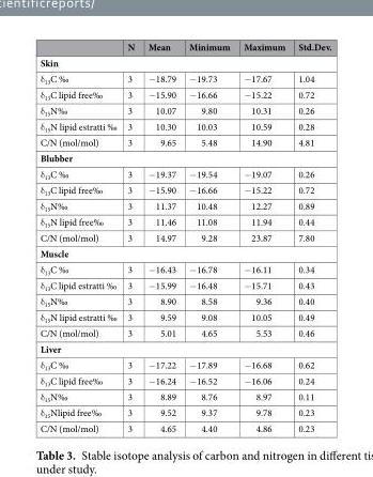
<table><thead><tr><td></td><td>N</td><td>Mean</td><td>Minimum</td><td>Maximum</td><td>Std.Dev.</td></tr></thead><tbody><tr><td colspan="6">Skin</td></tr><tr><td>δ<sub>13</sub>C ‰</td><td>3</td><td>−18.79</td><td>−19.73</td><td>−17.67</td><td>1.04</td></tr><tr><td>δ<sub>13</sub>C lipid free‰</td><td>3</td><td>−15.90</td><td>−16.66</td><td>−15.22</td><td>0.72</td></tr><tr><td>δ<sub>15</sub>N‰</td><td>3</td><td>10.07</td><td>9.80</td><td>10.31</td><td>0.26</td></tr><tr><td>δ<sub>15</sub>N lipid estratti ‰</td><td>3</td><td>10.30</td><td>10.03</td><td>10.59</td><td>0.28</td></tr><tr><td>C/N (mol/mol)</td><td>3</td><td>9.65</td><td>5.48</td><td>14.90</td><td>4.81</td></tr><tr><td colspan="6">Blubber</td></tr><tr><td>δ<sub>13</sub>C ‰</td><td>3</td><td>−19.37</td><td>−19.54</td><td>−19.07</td><td>0.26</td></tr><tr><td>δ<sub>13</sub>C lipid free‰</td><td>3</td><td>−15.90</td><td>−16.66</td><td>−15.22</td><td>0.72</td></tr><tr><td>δ<sub>15</sub>N‰</td><td>3</td><td>11.37</td><td>10.48</td><td>12.27</td><td>0.89</td></tr><tr><td>δ<sub>15</sub>N lipid free‰</td><td>3</td><td>11.46</td><td>11.08</td><td>11.94</td><td>0.44</td></tr><tr><td>C/N (mol/mol)</td><td>3</td><td>14.97</td><td>9.28</td><td>23.87</td><td>7.80</td></tr><tr><td colspan="6">Muscle</td></tr><tr><td>δ<sub>13</sub>C ‰</td><td>3</td><td>−16.43</td><td>−16.78</td><td>−16.11</td><td>0.34</td></tr><tr><td>δ<sub>13</sub>C lipid estratti ‰</td><td>3</td><td>−15.99</td><td>−16.48</td><td>−15.71</td><td>0.43</td></tr><tr><td>δ<sub>15</sub>N‰</td><td>3</td><td>8.90</td><td>8.58</td><td>9.36</td><td>0.40</td></tr><tr><td>δ<sub>15</sub>N lipid estratti ‰</td><td>3</td><td>9.59</td><td>9.08</td><td>10.05</td><td>0.49</td></tr><tr><td>C/N (mol/mol)</td><td>3</td><td>5.01</td><td>4.65</td><td>5.53</td><td>0.46</td></tr><tr><td colspan="6">Liver</td></tr><tr><td>δ<sub>13</sub>C ‰</td><td>3</td><td>−17.22</td><td>−17.89</td><td>−16.68</td><td>0.62</td></tr><tr><td>δ<sub>13</sub>C lipid free‰</td><td>3</td><td>−16.24</td><td>−16.52</td><td>−16.06</td><td>0.24</td></tr><tr><td>δ<sub>15</sub>N‰</td><td>3</td><td>8.89</td><td>8.76</td><td>8.97</td><td>0.11</td></tr><tr><td>δ<sub>15</sub>Nlipid free‰</td><td>3</td><td>9.52</td><td>9.37</td><td>9.78</td><td>0.23</td></tr><tr><td>C/N (mol/mol)</td><td>3</td><td>4.65</td><td>4.40</td><td>4.86</td><td>0.23</td></tr></tbody></table>